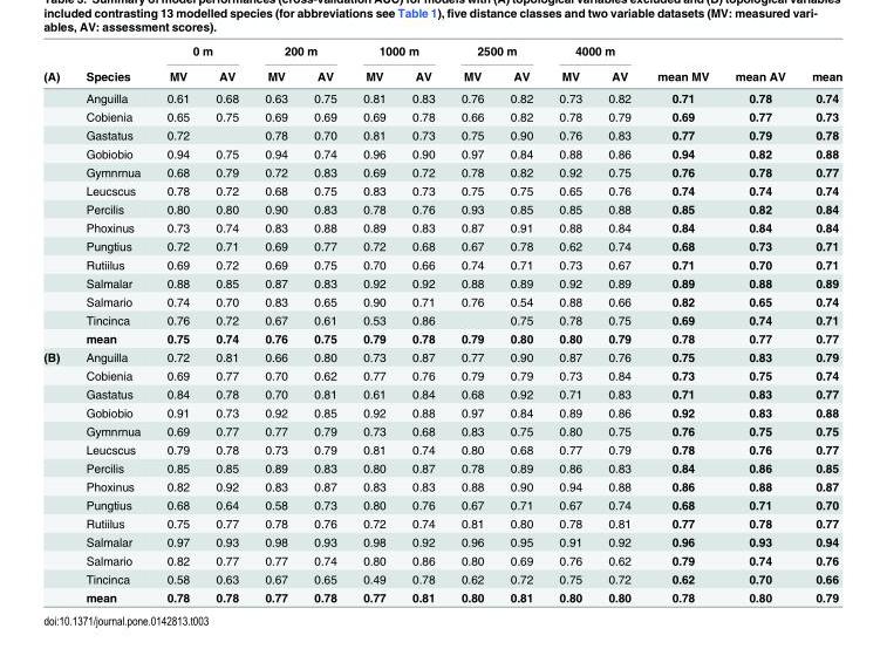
<table><thead><tr><td rowspan="2">(A)</td><td rowspan="2">Species</td><td colspan="2">0 m</td><td colspan="2">200 m</td><td colspan="2">1000 m</td><td colspan="2">2500 m</td><td colspan="2">4000 m</td><td rowspan="2">mean MV</td><td rowspan="2">mean AV</td><td rowspan="2">mean</td></tr><tr><td>MV</td><td>AV</td><td>MV</td><td>AV</td><td>MV</td><td>AV</td><td>MV</td><td>AV</td><td>MV</td><td>AV</td></tr></thead><tbody><tr><td></td><td>Anguilla</td><td>0.61</td><td>0.68</td><td>0.63</td><td>0.75</td><td>0.81</td><td>0.83</td><td>0.76</td><td>0.82</td><td>0.73</td><td>0.82</td><td>0.71</td><td>0.78</td><td>0.74</td></tr><tr><td></td><td>Cobienia</td><td>0.65</td><td>0.75</td><td>0.69</td><td>0.69</td><td>0.69</td><td>0.78</td><td>0.66</td><td>0.82</td><td>0.78</td><td>0.79</td><td>0.69</td><td>0.77</td><td>0.73</td></tr><tr><td></td><td>Gastatus</td><td>0.72</td><td></td><td>0.78</td><td>0.70</td><td>0.81</td><td>0.73</td><td>0.75</td><td>0.90</td><td>0.76</td><td>0.83</td><td>0.77</td><td>0.79</td><td>0.78</td></tr><tr><td></td><td>Gobiobio</td><td>0.94</td><td>0.75</td><td>0.94</td><td>0.74</td><td>0.96</td><td>0.90</td><td>0.97</td><td>0.84</td><td>0.88</td><td>0.86</td><td>0.94</td><td>0.82</td><td>0.88</td></tr><tr><td></td><td>Gymnrnua</td><td>0.68</td><td>0.79</td><td>0.72</td><td>0.83</td><td>0.69</td><td>0.72</td><td>0.78</td><td>0.82</td><td>0.92</td><td>0.75</td><td>0.76</td><td>0.78</td><td>0.77</td></tr><tr><td></td><td>Leucscus</td><td>0.78</td><td>0.72</td><td>0.68</td><td>0.75</td><td>0.83</td><td>0.73</td><td>0.75</td><td>0.75</td><td>0.65</td><td>0.76</td><td>0.74</td><td>0.74</td><td>0.74</td></tr><tr><td></td><td>Percilis</td><td>0.80</td><td>0.80</td><td>0.90</td><td>0.83</td><td>0.78</td><td>0.76</td><td>0.93</td><td>0.85</td><td>0.85</td><td>0.88</td><td>0.85</td><td>0.82</td><td>0.84</td></tr><tr><td></td><td>Phoxinus</td><td>0.73</td><td>0.74</td><td>0.83</td><td>0.88</td><td>0.89</td><td>0.83</td><td>0.87</td><td>0.91</td><td>0.88</td><td>0.84</td><td>0.84</td><td>0.84</td><td>0.84</td></tr><tr><td></td><td>Pungtius</td><td>0.72</td><td>0.71</td><td>0.69</td><td>0.77</td><td>0.72</td><td>0.68</td><td>0.67</td><td>0.78</td><td>0.62</td><td>0.74</td><td>0.68</td><td>0.73</td><td>0.71</td></tr><tr><td></td><td>Rutiilus</td><td>0.69</td><td>0.72</td><td>0.69</td><td>0.75</td><td>0.70</td><td>0.66</td><td>0.74</td><td>0.71</td><td>0.73</td><td>0.67</td><td>0.71</td><td>0.70</td><td>0.71</td></tr><tr><td></td><td>Salmalar</td><td>0.88</td><td>0.85</td><td>0.87</td><td>0.83</td><td>0.92</td><td>0.92</td><td>0.88</td><td>0.89</td><td>0.92</td><td>0.89</td><td>0.89</td><td>0.88</td><td>0.89</td></tr><tr><td></td><td>Salmario</td><td>0.74</td><td>0.70</td><td>0.83</td><td>0.65</td><td>0.90</td><td>0.71</td><td>0.76</td><td>0.54</td><td>0.88</td><td>0.66</td><td>0.82</td><td>0.65</td><td>0.74</td></tr><tr><td></td><td>Tincinca</td><td>0.76</td><td>0.72</td><td>0.67</td><td>0.61</td><td>0.53</td><td>0.86</td><td></td><td>0.75</td><td>0.78</td><td>0.75</td><td>0.69</td><td>0.74</td><td>0.71</td></tr><tr><td></td><td>mean</td><td>0.75</td><td>0.74</td><td>0.76</td><td>0.75</td><td>0.79</td><td>0.78</td><td>0.79</td><td>0.80</td><td>0.80</td><td>0.79</td><td>0.78</td><td>0.77</td><td>0.77</td></tr><tr><td rowspan="14">(B)</td><td>Anguilla</td><td>0.72</td><td>0.81</td><td>0.66</td><td>0.80</td><td>0.73</td><td>0.87</td><td>0.77</td><td>0.90</td><td>0.87</td><td>0.76</td><td>0.75</td><td>0.83</td><td>0.79</td></tr><tr><td>Cobienia</td><td>0.69</td><td>0.77</td><td>0.70</td><td>0.62</td><td>0.77</td><td>0.76</td><td>0.79</td><td>0.79</td><td>0.73</td><td>0.84</td><td>0.73</td><td>0.75</td><td>0.74</td></tr><tr><td>Gastatus</td><td>0.84</td><td>0.78</td><td>0.70</td><td>0.81</td><td>0.61</td><td>0.84</td><td>0.68</td><td>0.92</td><td>0.71</td><td>0.83</td><td>0.71</td><td>0.83</td><td>0.77</td></tr><tr><td>Gobiobio</td><td>0.91</td><td>0.73</td><td>0.92</td><td>0.85</td><td>0.92</td><td>0.88</td><td>0.97</td><td>0.84</td><td>0.89</td><td>0.86</td><td>0.92</td><td>0.83</td><td>0.88</td></tr><tr><td>Gymnrnua</td><td>0.69</td><td>0.77</td><td>0.77</td><td>0.79</td><td>0.73</td><td>0.68</td><td>0.83</td><td>0.75</td><td>0.80</td><td>0.75</td><td>0.76</td><td>0.75</td><td>0.75</td></tr><tr><td>Leucscus</td><td>0.79</td><td>0.78</td><td>0.73</td><td>0.79</td><td>0.81</td><td>0.74</td><td>0.80</td><td>0.68</td><td>0.77</td><td>0.79</td><td>0.78</td><td>0.76</td><td>0.77</td></tr><tr><td>Percilis</td><td>0.85</td><td>0.85</td><td>0.89</td><td>0.83</td><td>0.80</td><td>0.87</td><td>0.78</td><td>0.89</td><td>0.86</td><td>0.83</td><td>0.84</td><td>0.86</td><td>0.85</td></tr><tr><td>Phoxinus</td><td>0.82</td><td>0.92</td><td>0.83</td><td>0.87</td><td>0.83</td><td>0.83</td><td>0.88</td><td>0.90</td><td>0.94</td><td>0.88</td><td>0.86</td><td>0.88</td><td>0.87</td></tr><tr><td>Pungtius</td><td>0.68</td><td>0.64</td><td>0.58</td><td>0.73</td><td>0.80</td><td>0.76</td><td>0.67</td><td>0.71</td><td>0.67</td><td>0.74</td><td>0.68</td><td>0.71</td><td>0.70</td></tr><tr><td>Rutiilus</td><td>0.75</td><td>0.77</td><td>0.78</td><td>0.76</td><td>0.72</td><td>0.74</td><td>0.81</td><td>0.80</td><td>0.78</td><td>0.81</td><td>0.77</td><td>0.78</td><td>0.77</td></tr><tr><td>Salmalar</td><td>0.97</td><td>0.93</td><td>0.98</td><td>0.93</td><td>0.98</td><td>0.92</td><td>0.96</td><td>0.95</td><td>0.91</td><td>0.92</td><td>0.96</td><td>0.93</td><td>0.94</td></tr><tr><td>Salmario</td><td>0.82</td><td>0.77</td><td>0.77</td><td>0.74</td><td>0.80</td><td>0.86</td><td>0.80</td><td>0.69</td><td>0.76</td><td>0.62</td><td>0.79</td><td>0.74</td><td>0.76</td></tr><tr><td>Tincinca</td><td>0.58</td><td>0.63</td><td>0.67</td><td>0.65</td><td>0.49</td><td>0.78</td><td>0.62</td><td>0.72</td><td>0.75</td><td>0.72</td><td>0.62</td><td>0.70</td><td>0.66</td></tr><tr><td>mean</td><td>0.78</td><td>0.78</td><td>0.77</td><td>0.78</td><td>0.77</td><td>0.81</td><td>0.80</td><td>0.81</td><td>0.80</td><td>0.80</td><td>0.78</td><td>0.80</td><td>0.79</td></tr></tbody></table>